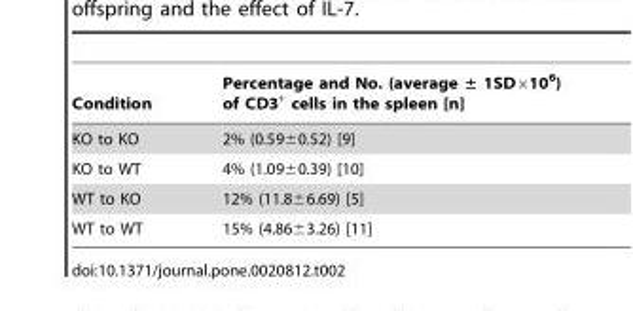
<table><thead><tr><td>Condition</td><td>Percentage and No. (average ± 1SD×10<sup>6</sup>) of CD3<sup>+</sup> cells in the spleen [n]</td></tr></thead><tbody><tr><td>KO to KO</td><td>2% (0.59±0.52) [9]</td></tr><tr><td>KO to WT</td><td>4% (1.09±0.39) [10]</td></tr><tr><td>WT to KO</td><td>12% (11.8±6.69) [5]</td></tr><tr><td>WT to WT</td><td>15% (4.86±3.26) [11]</td></tr></tbody></table>